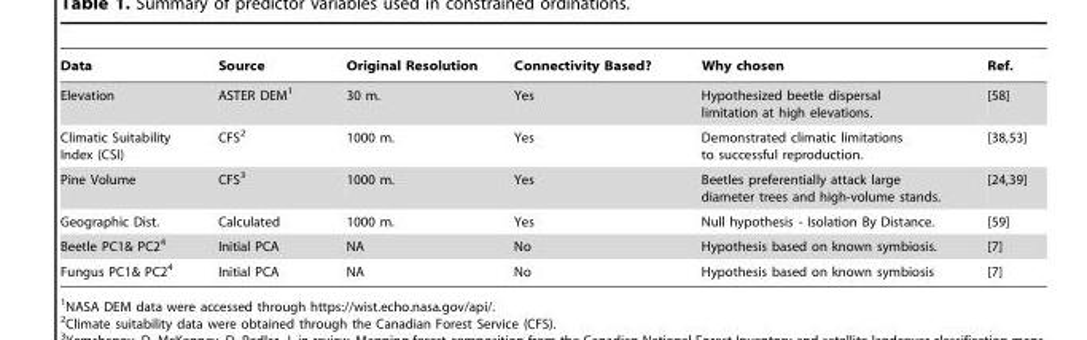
<table><thead><tr><td>Data</td><td>Source</td><td>Original Resolution</td><td>Connectivity Based?</td><td>Why chosen</td><td>Ref.</td></tr></thead><tbody><tr><td>Elevation</td><td>ASTER DEM<sup>1</sup></td><td>30 m.</td><td>Yes</td><td>Hypothesized beetle dispersal limitation at high elevations.</td><td>[58]</td></tr><tr><td>Climatic Suitability Index (CSI)</td><td>CFS<sup>2</sup></td><td>1000 m.</td><td>Yes</td><td>Demonstrated climatic limitations to successful reproduction.</td><td>[38,53]</td></tr><tr><td>Pine Volume</td><td>CFS<sup>3</sup></td><td>1000 m.</td><td>Yes</td><td>Beetles preferentially attack large diameter trees and high-volume stands.</td><td>[24,39]</td></tr><tr><td>Geographic Dist.</td><td>Calculated</td><td>1000 m.</td><td>Yes</td><td>Null hypothesis - Isolation By Distance.</td><td>[59]</td></tr><tr><td>Beetle PC1&amp; PC2<sup>4</sup></td><td>Initial PCA</td><td>NA</td><td>No</td><td>Hypothesis based on known symbiosis.</td><td>[7]</td></tr><tr><td>Fungus PC1&amp; PC2<sup>4</sup></td><td>Initial PCA</td><td>NA</td><td>No</td><td>Hypothesis based on known symbiosis</td><td>[7]</td></tr></tbody></table>